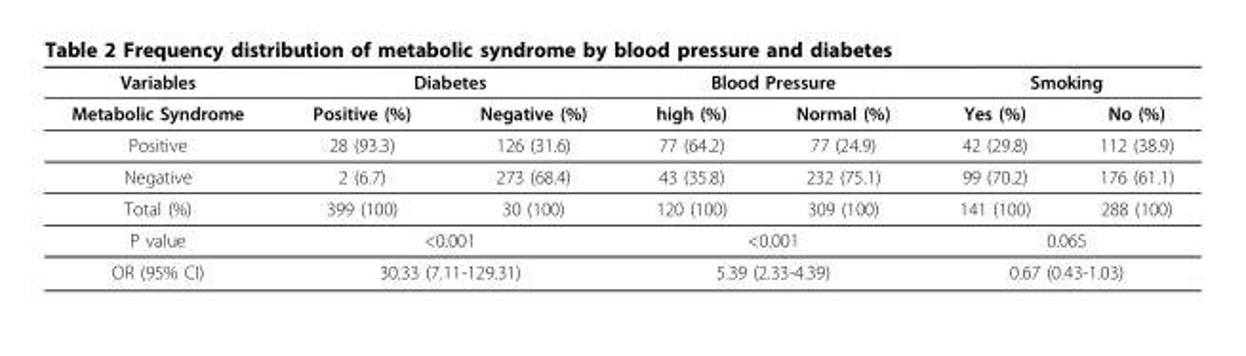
<table><thead><tr><td rowspan="2">Variables Metabolic Syndrome</td><td colspan="2">Diabetes</td><td colspan="2">Blood Pressure</td><td colspan="2">Smoking</td></tr><tr><td>Positive (%)</td><td>Negative (%)</td><td>high (%)</td><td>Normal (%)</td><td>Yes (%)</td><td>No (%)</td></tr></thead><tbody><tr><td>Positive</td><td>28 (93.3)</td><td>126 (31.6)</td><td>77 (64.2)</td><td>77 (24.9)</td><td>42 (29.8)</td><td>112 (38.9)</td></tr><tr><td>Negative</td><td>2 (6.7)</td><td>273 (68.4)</td><td>43 (35.8)</td><td>232 (75.1)</td><td>99 (70.2)</td><td>176 (61.1)</td></tr><tr><td>Total (%)</td><td>399 (100)</td><td>30 (100)</td><td>120 (100)</td><td>309 (100)</td><td>141 (100)</td><td>288 (100)</td></tr><tr><td>P value</td><td colspan="2">&lt;0.001</td><td colspan="2">&lt;0.001</td><td colspan="2">0.065</td></tr><tr><td>OR (95% CI)</td><td colspan="2">30.33 (7.11-129.31)</td><td colspan="2">5.39 (2.33-4.39)</td><td colspan="2">0.67 (0.43-1.03)</td></tr></tbody></table>